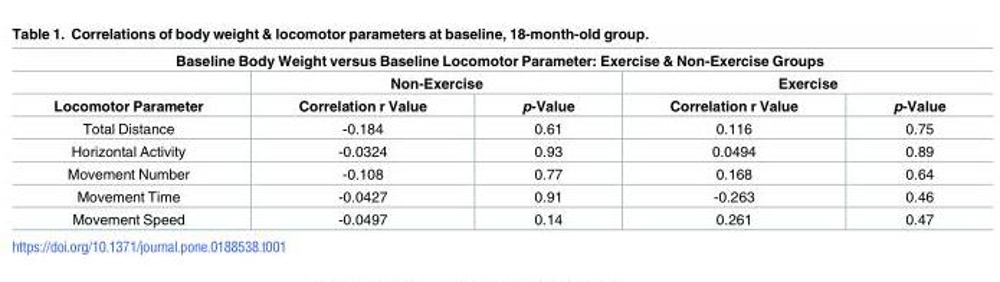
<table><thead><tr><td colspan="5">Baseline Body Weight versus Baseline Locomotor Parameter: Exercise &amp; Non-Exercise Groups</td></tr><tr><td rowspan="2">Locomotor Parameter</td><td colspan="2">Non-Exercise</td><td colspan="2">Exercise</td></tr><tr><td>Correlation r Value</td><td>p-Value</td><td>Correlation r Value</td><td>p-Value</td></tr></thead><tbody><tr><td>Total Distance</td><td>-0.184</td><td>0.61</td><td>0.116</td><td>0.75</td></tr><tr><td>Horizontal Activity</td><td>-0.0324</td><td>0.93</td><td>0.0494</td><td>0.89</td></tr><tr><td>Movement Number</td><td>-0.108</td><td>0.77</td><td>0.168</td><td>0.64</td></tr><tr><td>Movement Time</td><td>-0.0427</td><td>0.91</td><td>-0.263</td><td>0.46</td></tr><tr><td>Movement Speed</td><td>-0.0497</td><td>0.14</td><td>0.261</td><td>0.47</td></tr></tbody></table>